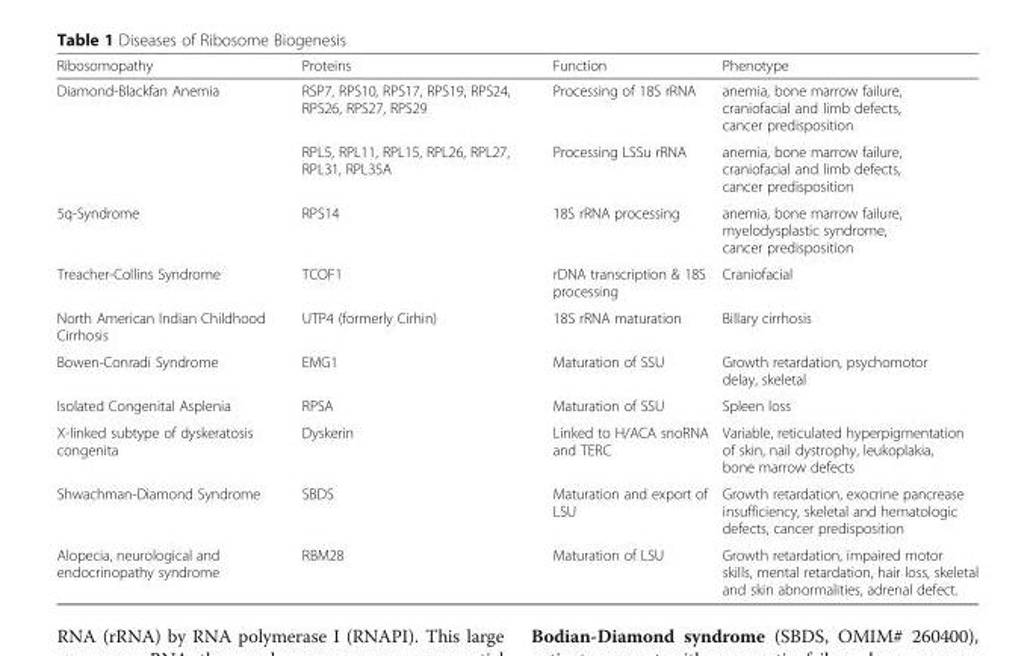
<table><thead><tr><td>Ribosomopathy</td><td>Proteins</td><td>Function</td><td>Phenotype</td></tr></thead><tbody><tr><td rowspan="2">Diamond-Blackfan Anemia</td><td>RSP7, RPS10, RPS17, RPS19, RPS24, RPS26, RPS27, RPS29</td><td>Processing of 18S rRNA</td><td>anemia, bone marrow failure, craniofacial and limb defects, cancer predisposition</td></tr><tr><td>RPL5, RPL11, RPL15, RPL26, RPL27, RPL31, RPL35A</td><td>Processing LSSu rRNA</td><td>anemia, bone marrow failure, craniofacial and limb defects, cancer predisposition</td></tr><tr><td>5q-Syndrome</td><td>RPS14</td><td>18S rRNA processing</td><td>anemia, bone marrow failure, myelodysplastic syndrome, cancer predisposition</td></tr><tr><td>Treacher-Collins Syndrome</td><td>TCOF1</td><td>rDNA transcription &amp; 18S processing</td><td>Craniofacial</td></tr><tr><td>North American Indian Childhood Cirrhosis</td><td>UTP4 (formerly Cirhin)</td><td>18S rRNA maturation</td><td>Billary cirrhosis</td></tr><tr><td>Bowen-Conradi Syndrome</td><td>EMG1</td><td>Maturation of SSU</td><td>Growth retardation, psychomotor delay, skeletal</td></tr><tr><td>Isolated Congenital Asplenia</td><td>RPSA</td><td>Maturation of SSU</td><td>Spleen loss</td></tr><tr><td>X-linked subtype of dyskeratosis congenita</td><td>Dyskerin</td><td>Linked to H/ACA snoRNA and TERC</td><td>Variable, reticulated hyperpigmentation of skin, nail dystrophy, leukoplakia, bone marrow defects</td></tr><tr><td>Shwachman-Diamond Syndrome</td><td>SBDS</td><td>Maturation and export of LSU</td><td>Growth retardation, exocrine pancrease insufficiency, skeletal and hematologic defects, cancer predisposition</td></tr><tr><td>Alopecia, neurological and endocrinopathy syndrome</td><td>RBM28</td><td>Maturation of LSU</td><td>Growth retardation, impaired motor skills, mental retardation, hair loss, skeletal and skin abnormalities, adrenal defect.</td></tr></tbody></table>